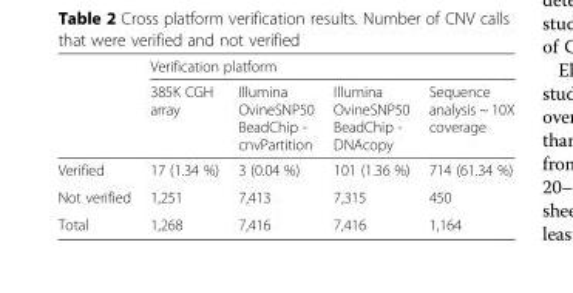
<table><thead><tr><td rowspan="2"></td><td colspan="4">Verification platform</td></tr><tr><td>385K CGH array</td><td>Illumina OvineSNP50 BeadChip - cnvPartition</td><td>Illumina OvineSNP50 BeadChip - DNAcopy</td><td>Sequence analysis ~ 10X coverage</td></tr></thead><tbody><tr><td>Verified</td><td>17 (1.34 %)</td><td>3 (0.04 %)</td><td>101 (1.36 %)</td><td>714 (61.34 %)</td></tr><tr><td>Not verified</td><td>1,251</td><td>7,413</td><td>7,315</td><td>450</td></tr><tr><td>Total</td><td>1,268</td><td>7,416</td><td>7,416</td><td>1,164</td></tr></tbody></table>